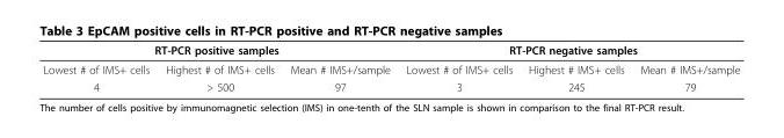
<table><thead><tr><td colspan="3">RT-PCR positive samples</td><td colspan="3">RT-PCR negative samples</td></tr><tr><td>Lowest # of IMS+ cells</td><td>Highest # of IMS+ cells</td><td>Mean # IMS+/sample</td><td>Lowest # of IMS+ cells</td><td>Highest # IMS+ cells</td><td>Mean # IMS+/sample</td></tr></thead><tbody><tr><td>4</td><td>&gt; 500</td><td>97</td><td>3</td><td>245</td><td>79</td></tr></tbody></table>